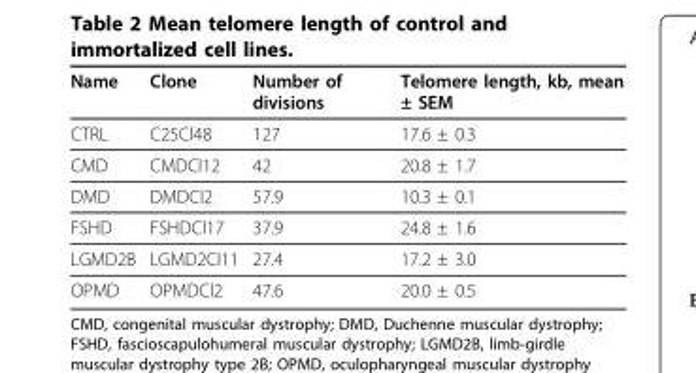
<table><thead><tr><td>Name</td><td>Clone</td><td>Number of divisions</td><td>Telomere length, kb, mean ± SEM</td></tr></thead><tbody><tr><td>CTRL</td><td>C25Cl48</td><td>127</td><td>17.6 ± 0.3</td></tr><tr><td>CMD</td><td>CMDCl12</td><td>42</td><td>20.8 ± 1.7</td></tr><tr><td>DMD</td><td>DMDCl2</td><td>57.9</td><td>10.3 ± 0.1</td></tr><tr><td>FSHD</td><td>FSHDCl17</td><td>37.9</td><td>24.8 ± 1.6</td></tr><tr><td>LGMD2B</td><td>LGMD2Cl11</td><td>27.4</td><td>17.2 ± 3.0</td></tr><tr><td>OPMD</td><td>OPMDCl2</td><td>47.6</td><td>20.0 ± 0.5</td></tr></tbody></table>